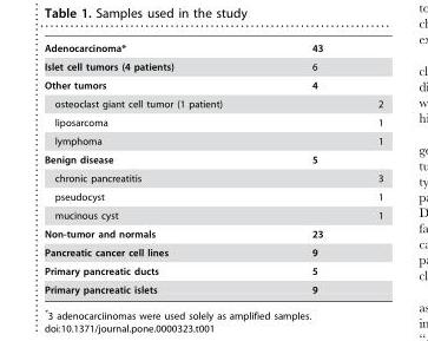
<table><tbody><tr><td>Adenocarcinoma*</td><td>43</td><td></td></tr><tr><td>Islet cell tumors (4 patients)</td><td>6</td><td></td></tr><tr><td>Other tumors</td><td>4</td><td></td></tr><tr><td>osteoclast giant cell tumor (1 patient)</td><td></td><td>2</td></tr><tr><td>liposarcoma</td><td></td><td>1</td></tr><tr><td>lymphoma</td><td></td><td>1</td></tr><tr><td>Benign disease</td><td>5</td><td></td></tr><tr><td>chronic pancreatitis</td><td></td><td>3</td></tr><tr><td>pseudocyst</td><td></td><td>1</td></tr><tr><td>mucinous cyst</td><td></td><td>1</td></tr><tr><td>Non-tumor and normals</td><td>23</td><td></td></tr><tr><td>Pancreatic cancer cell lines</td><td>9</td><td></td></tr><tr><td>Primary pancreatic ducts</td><td>5</td><td></td></tr><tr><td>Primary pancreatic islets</td><td>9</td><td></td></tr></tbody></table>